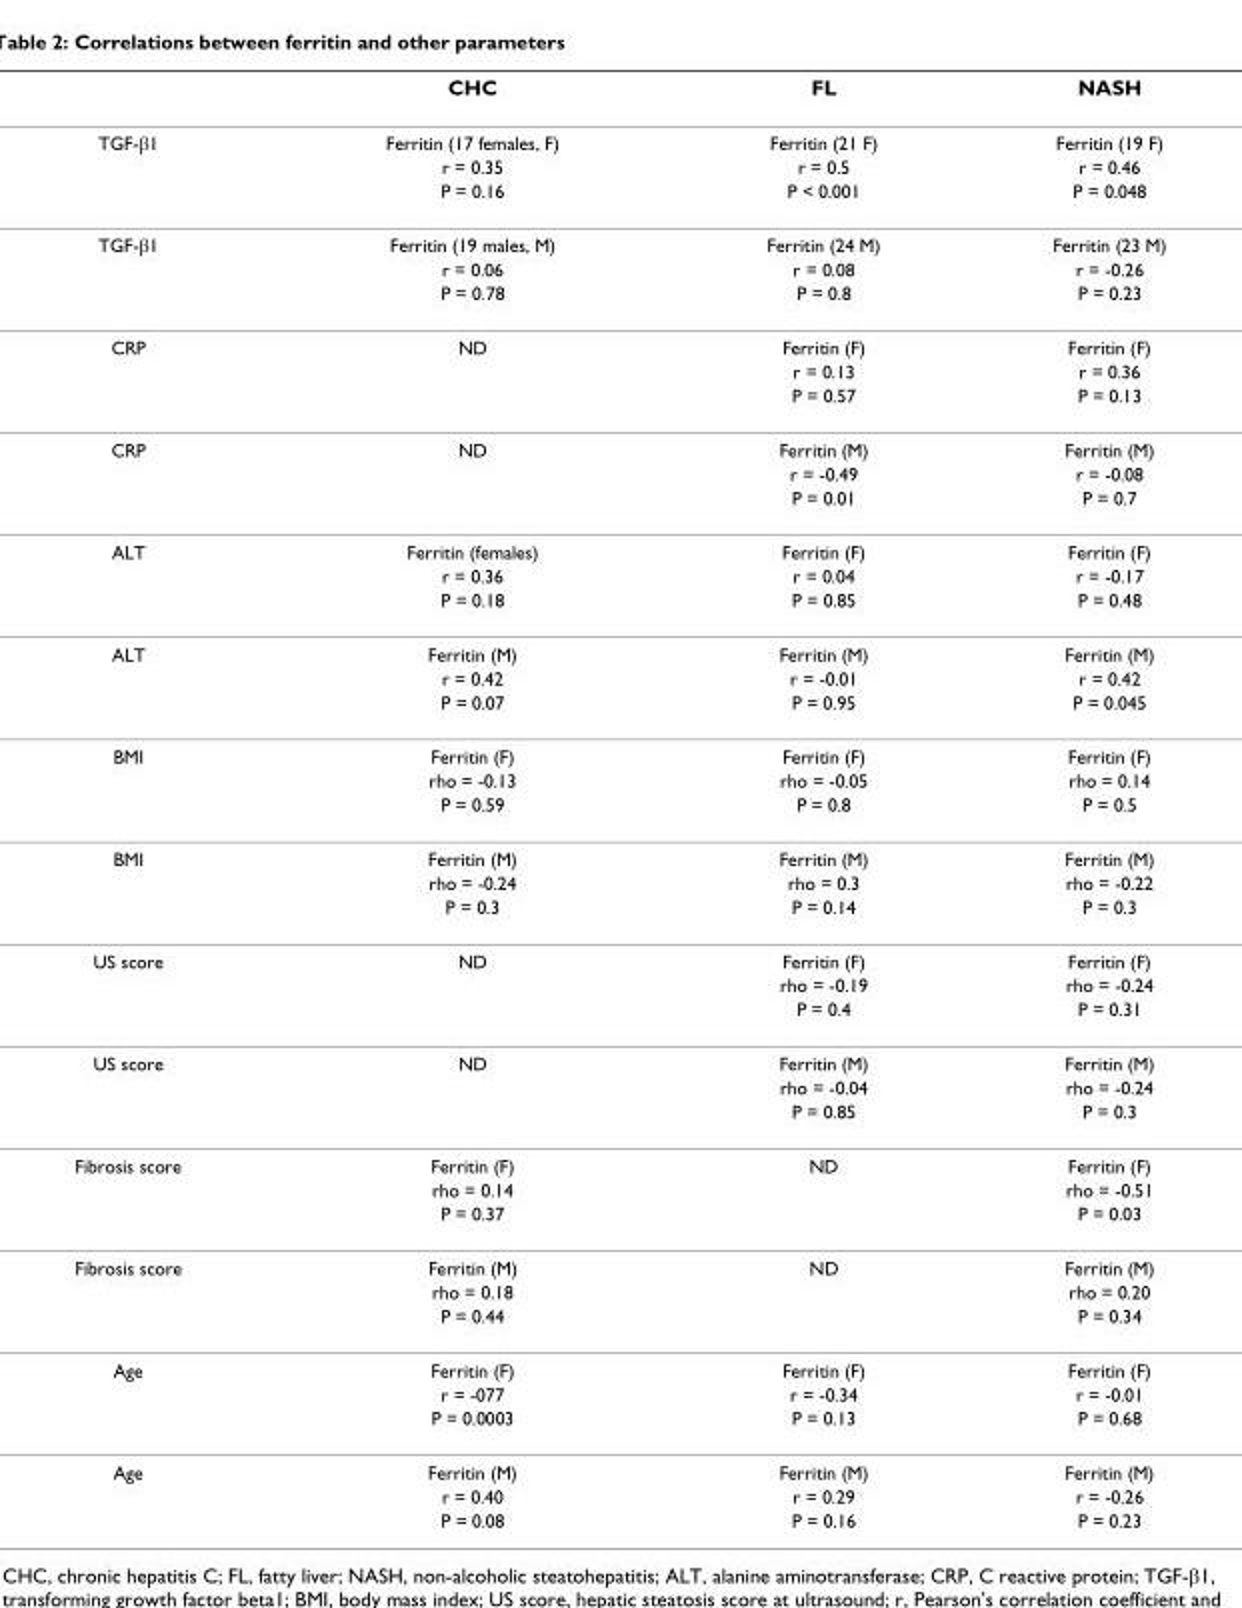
<table><thead><tr><td></td><td>CHC</td><td>FL</td><td>NASH</td></tr></thead><tbody><tr><td rowspan="3">TGF-β1</td><td>Ferritin (17 females, F)</td><td>Ferritin (21 F)</td><td>Ferritin (19 F)</td></tr><tr><td>r = 0.35</td><td>r = 0.5</td><td>r = 0.46</td></tr><tr><td>P = 0.16</td><td>P &lt; 0.001</td><td>P = 0.048</td></tr><tr><td rowspan="3">TGF-β1</td><td>Ferritin (19 males, M)</td><td>Ferritin (24 M)</td><td>Ferritin (23 M)</td></tr><tr><td>r = 0.06</td><td>r = 0.08</td><td>r = -0.26</td></tr><tr><td>P = 0.78</td><td>P = 0.8</td><td>P = 0.23</td></tr><tr><td rowspan="3">CRP</td><td>ND</td><td>Ferritin (F)</td><td>Ferritin (F)</td></tr><tr><td></td><td>r = 0.13</td><td>r = 0.36</td></tr><tr><td></td><td>P = 0.57</td><td>P = 0.13</td></tr><tr><td rowspan="3">CRP</td><td>ND</td><td>Ferritin (M)</td><td>Ferritin (M)</td></tr><tr><td></td><td>r = -0.49</td><td>r = -0.08</td></tr><tr><td></td><td>P = 0.01</td><td>P = 0.7</td></tr><tr><td rowspan="3">ALT</td><td>Ferritin (females)</td><td>Ferritin (F)</td><td>Ferritin (F)</td></tr><tr><td>r = 0.36</td><td>r = 0.04</td><td>r = -0.17</td></tr><tr><td>P = 0.18</td><td>P = 0.85</td><td>P = 0.48</td></tr><tr><td rowspan="3">ALT</td><td>Ferritin (M)</td><td>Ferritin (M)</td><td>Ferritin (M)</td></tr><tr><td>r = 0.42</td><td>r = -0.01</td><td>r = 0.42</td></tr><tr><td>P = 0.07</td><td>P = 0.95</td><td>P = 0.045</td></tr><tr><td rowspan="3">BMI</td><td>Ferritin (F)</td><td>Ferritin (F)</td><td>Ferritin (F)</td></tr><tr><td>rho = -0.13</td><td>rho = -0.05</td><td>rho = 0.14</td></tr><tr><td>P = 0.59</td><td>P = 0.8</td><td>P = 0.5</td></tr><tr><td rowspan="3">BMI</td><td>Ferritin (M)</td><td>Ferritin (M)</td><td>Ferritin (M)</td></tr><tr><td>rho = -0.24</td><td>rho = 0.3</td><td>rho = -0.22</td></tr><tr><td>P = 0.3</td><td>P = 0.14</td><td>P = 0.3</td></tr><tr><td rowspan="3">US score</td><td>ND</td><td>Ferritin (F)</td><td>Ferritin (F)</td></tr><tr><td></td><td>rho = -0.19</td><td>rho = -0.24</td></tr><tr><td></td><td>P = 0.4</td><td>P = 0.31</td></tr><tr><td rowspan="3">US score</td><td>ND</td><td>Ferritin (M)</td><td>Ferritin (M)</td></tr><tr><td></td><td>rho = -0.04</td><td>rho = -0.24</td></tr><tr><td></td><td>P = 0.85</td><td>P = 0.3</td></tr><tr><td rowspan="3">Fibrosis score</td><td>Ferritin (F)</td><td>ND</td><td>Ferritin (F)</td></tr><tr><td>rho = 0.14</td><td></td><td>rho = -0.51</td></tr><tr><td>P = 0.37</td><td></td><td>P = 0.03</td></tr><tr><td rowspan="3">Fibrosis score</td><td>Ferritin (M)</td><td>ND</td><td>Ferritin (M)</td></tr><tr><td>rho = 0.18</td><td></td><td>rho = 0.20</td></tr><tr><td>P = 0.44</td><td></td><td>P = 0.34</td></tr><tr><td rowspan="3">Age</td><td>Ferritin (F)</td><td>Ferritin (F)</td><td>Ferritin (F)</td></tr><tr><td>r = -077</td><td>r = -0.34</td><td>r = -0.01</td></tr><tr><td>P = 0.0003</td><td>P = 0.13</td><td>P = 0.68</td></tr><tr><td rowspan="3">Age</td><td>Ferritin (M)</td><td>Ferritin (M)</td><td>Ferritin (M)</td></tr><tr><td>r = 0.40</td><td>r = 0.29</td><td>r = -0.26</td></tr><tr><td>P = 0.08</td><td>P = 0.16</td><td>P = 0.23</td></tr></tbody></table>